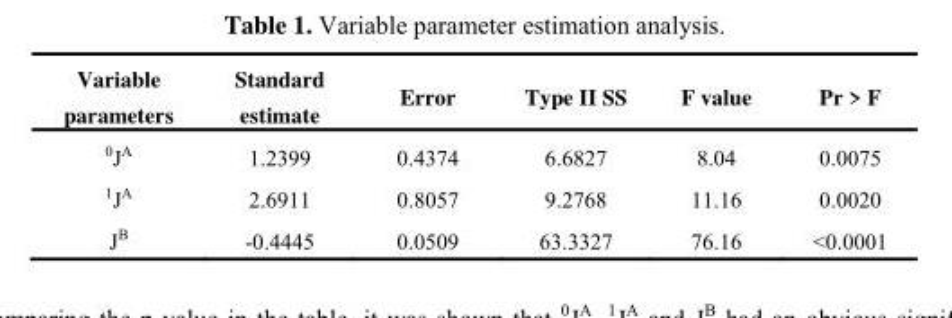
<table><thead><tr><td>Variable parameters</td><td>Standard estimate</td><td>Error</td><td>Type II SS</td><td>F value</td><td>Pr &gt; F</td></tr></thead><tbody><tr><td><sup>0</sup>J<sup>A</sup></td><td>1.2399</td><td>0.4374</td><td>6.6827</td><td>8.04</td><td>0.0075</td></tr><tr><td><sup>1</sup>J<sup>A</sup></td><td>2.6911</td><td>0.8057</td><td>9.2768</td><td>11.16</td><td>0.0020</td></tr><tr><td>J<sup>B</sup></td><td>-0.4445</td><td>0.0509</td><td>63.3327</td><td>76.16</td><td>&lt;0.0001</td></tr></tbody></table>